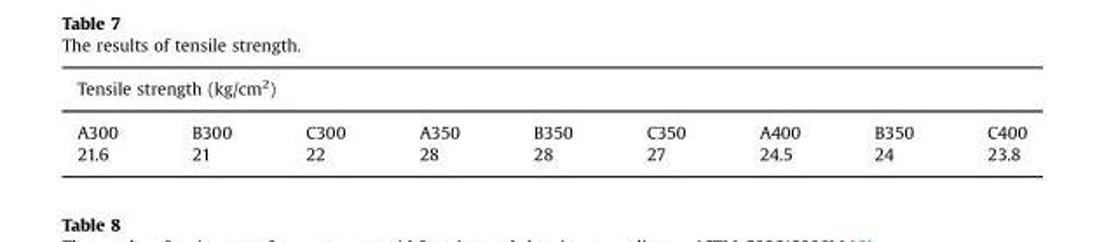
<table><thead><tr><td colspan="9">Tensile strength (kg/cm<sup>2</sup>)</td></tr><tr><td>A300</td><td>B300</td><td>C300</td><td>A350</td><td>B350</td><td>C350</td><td>A400</td><td>B350</td><td>C400</td></tr></thead><tbody><tr><td>21.6</td><td>21</td><td>22</td><td>28</td><td>28</td><td>27</td><td>24.5</td><td>24</td><td>23.8</td></tr></tbody></table>